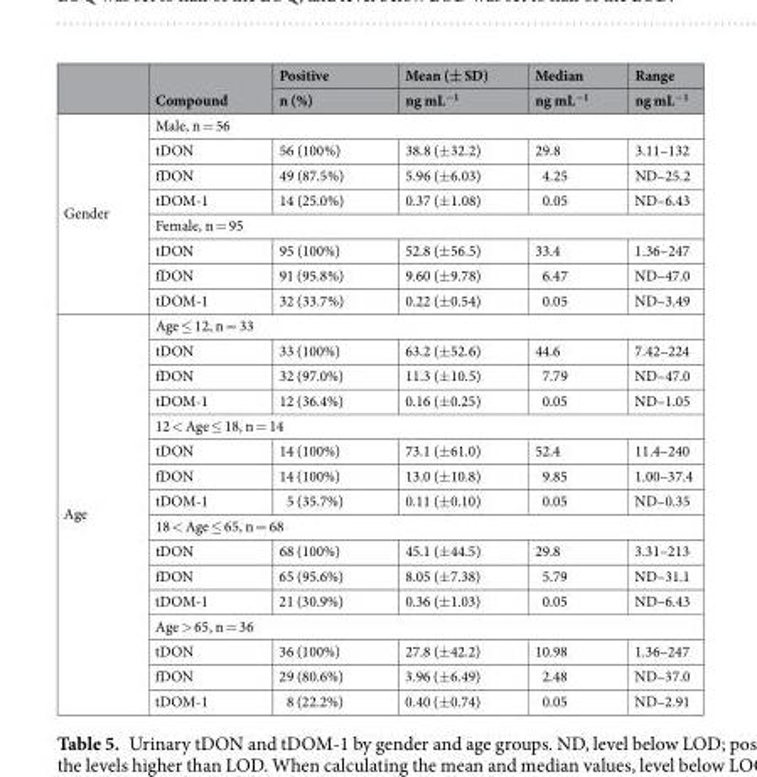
<table><thead><tr><td rowspan="2"></td><td rowspan="2">Compound</td><td rowspan="2">Positive n (%)</td><td rowspan="2">Mean (± SD) ng mL<sup>−1</sup></td><td rowspan="2">Median ng mL<sup>−1</sup></td><td rowspan="2">Range ng mL<sup>−1</sup></td></tr><tr></tr></thead><tbody><tr><td rowspan="8">Gender</td><td colspan="5">Male, n = 56</td></tr><tr><td>tDON</td><td>56 (100%)</td><td>38.8 (±32.2)</td><td>29.8</td><td>3.11–132</td></tr><tr><td>fDON</td><td>49 (87.5%)</td><td>5.96 (±6.03)</td><td>4.25</td><td>ND–25.2</td></tr><tr><td>tDOM-1</td><td>14 (25.0%)</td><td>0.37 (±1.08)</td><td>0.05</td><td>ND–6.43</td></tr><tr><td colspan="5">Female, n = 95</td></tr><tr><td>tDON</td><td>95 (100%)</td><td>52.8 (±56.5)</td><td>33.4</td><td>1.36–247</td></tr><tr><td>fDON</td><td>91 (95.8%)</td><td>9.60 (±9.78)</td><td>6.47</td><td>ND–47.0</td></tr><tr><td>tDOM-1</td><td>32 (33.7%)</td><td>0.22 (±0.54)</td><td>0.05</td><td>ND–3.49</td></tr><tr><td rowspan="16">Age</td><td colspan="5">Age ≤ 12, n = 33</td></tr><tr><td>tDON</td><td>33 (100%)</td><td>63.2 (±52.6)</td><td>44.6</td><td>7.42–224</td></tr><tr><td>fDON</td><td>32 (97.0%)</td><td>11.3 (±10.5)</td><td>7.79</td><td>ND–47.0</td></tr><tr><td>tDOM-1</td><td>12 (36.4%)</td><td>0.16 (±0.25)</td><td>0.05</td><td>ND–1.05</td></tr><tr><td colspan="5">12 &lt; Age ≤ 18, n = 14</td></tr><tr><td>tDON</td><td>14 (100%)</td><td>73.1 (±61.0)</td><td>52.4</td><td>11.4–240</td></tr><tr><td>fDON</td><td>14 (100%)</td><td>13.0 (±10.8)</td><td>9.85</td><td>1.00–37.4</td></tr><tr><td>tDOM-1</td><td>5 (35.7%)</td><td>0.11 (±0.10)</td><td>0.05</td><td>ND–0.35</td></tr><tr><td colspan="5">18 &lt; Age ≤ 65, n = 68</td></tr><tr><td>tDON</td><td>68 (100%)</td><td>45.1 (±44.5)</td><td>29.8</td><td>3.31–213</td></tr><tr><td>fDON</td><td>65 (95.6%)</td><td>8.05 (±7.38)</td><td>5.79</td><td>ND–31.1</td></tr><tr><td>tDOM-1</td><td>21 (30.9%)</td><td>0.36 (±1.03)</td><td>0.05</td><td>ND–6.43</td></tr><tr><td colspan="5">Age &gt; 65, n = 36</td></tr><tr><td>tDON</td><td>36 (100%)</td><td>27.8 (±42.2)</td><td>10.98</td><td>1.36–247</td></tr><tr><td>fDON</td><td>29 (80.6%)</td><td>3.96 (±6.49)</td><td>2.48</td><td>ND–37.0</td></tr><tr><td>tDOM-1</td><td>8 (22.2%)</td><td>0.40 (±0.74)</td><td>0.05</td><td>ND–2.91</td></tr></tbody></table>